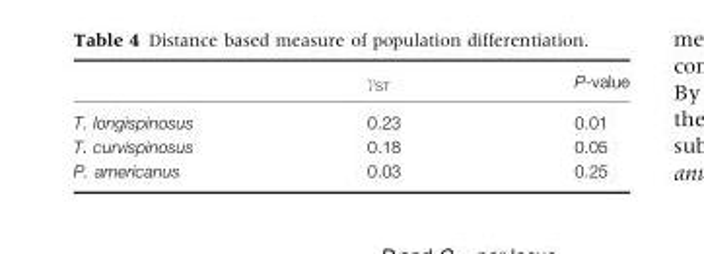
<table><thead><tr><td></td><td>γ<sub>ST</sub></td><td>P-value</td></tr></thead><tbody><tr><td>T. longispinosus</td><td>0.23</td><td>0.01</td></tr><tr><td>T. curvispinosus</td><td>0.18</td><td>0.05</td></tr><tr><td>P. americanus</td><td>0.03</td><td>0.25</td></tr></tbody></table>